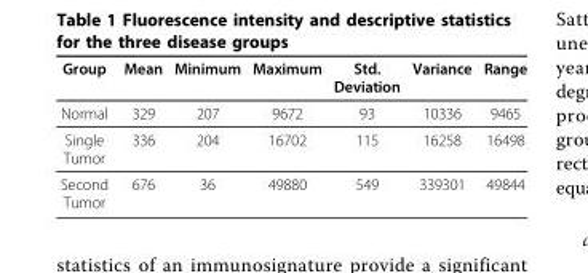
<table><thead><tr><td>Group</td><td>Mean</td><td>Minimum</td><td>Maximum</td><td>Std. Deviation</td><td>Variance</td><td>Range</td></tr></thead><tbody><tr><td>Normal</td><td>329</td><td>207</td><td>9672</td><td>93</td><td>10336</td><td>9465</td></tr><tr><td>Single Tumor</td><td>336</td><td>204</td><td>16702</td><td>115</td><td>16258</td><td>16498</td></tr><tr><td>Second Tumor</td><td>676</td><td>36</td><td>49880</td><td>549</td><td>339301</td><td>49844</td></tr></tbody></table>